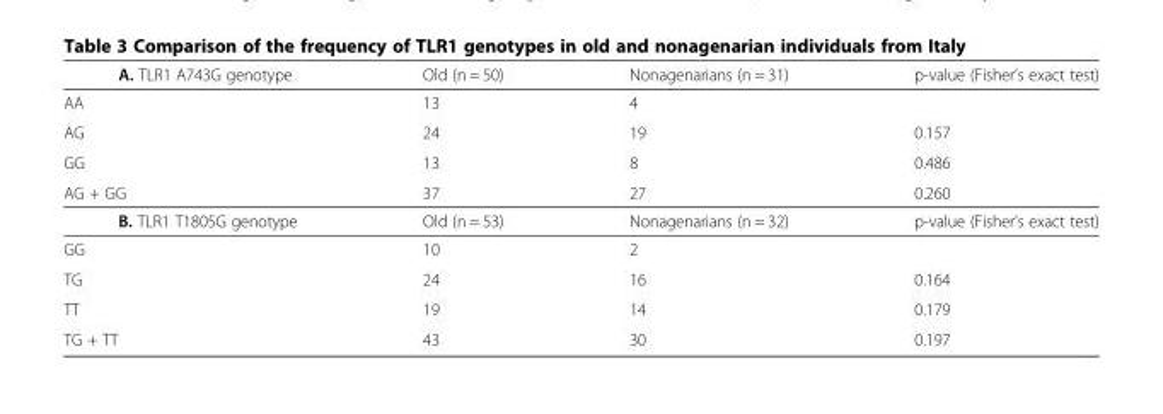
<table><tbody><tr><td>A. TLR1 A743G genotype</td><td>Old (n = 50)</td><td>Nonagenarians (n = 31)</td><td>p-value (Fisher’s exact test)</td></tr><tr><td>AA</td><td>13</td><td>4</td><td></td></tr><tr><td>AG</td><td>24</td><td>19</td><td>0.157</td></tr><tr><td>GG</td><td>13</td><td>8</td><td>0.486</td></tr><tr><td>AG + GG</td><td>37</td><td>27</td><td>0.260</td></tr><tr><td>B. TLR1 T1805G genotype</td><td>Old (n = 53)</td><td>Nonagenarians (n = 32)</td><td>p-value (Fisher’s exact test)</td></tr><tr><td>GG</td><td>10</td><td>2</td><td></td></tr><tr><td>TG</td><td>24</td><td>16</td><td>0.164</td></tr><tr><td>TT</td><td>19</td><td>14</td><td>0.179</td></tr><tr><td>TG + TT</td><td>43</td><td>30</td><td>0.197</td></tr></tbody></table>